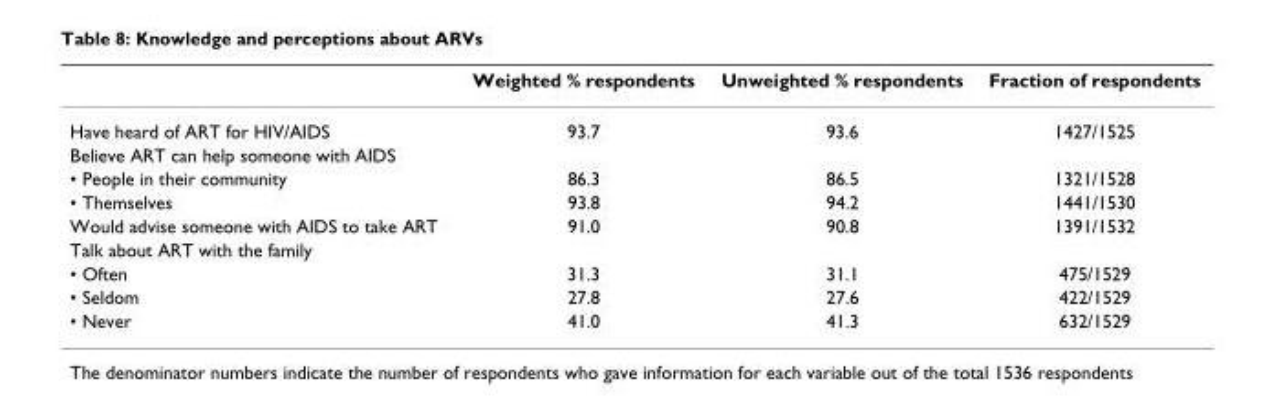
<table><thead><tr><td></td><td>Weighted % respondents</td><td>Unweighted % respondents</td><td>Fraction of respondents</td></tr></thead><tbody><tr><td>Have heard of ART for HIV/AIDS</td><td>93.7</td><td>93.6</td><td>1427/1525</td></tr><tr><td colspan="4">Believe ART can help someone with AIDS</td></tr><tr><td>• People in their community</td><td>86.3</td><td>86.5</td><td>1321/1528</td></tr><tr><td>• Themselves</td><td>93.8</td><td>94.2</td><td>1441/1530</td></tr><tr><td>Would advise someone with AIDS to take ART</td><td>91.0</td><td>90.8</td><td>1391/1532</td></tr><tr><td colspan="4">Talk about ART with the family</td></tr><tr><td>• Often</td><td>31.3</td><td>31.1</td><td>475/1529</td></tr><tr><td>• Seldom</td><td>27.8</td><td>27.6</td><td>422/1529</td></tr><tr><td>• Never</td><td>41.0</td><td>41.3</td><td>632/1529</td></tr></tbody></table>